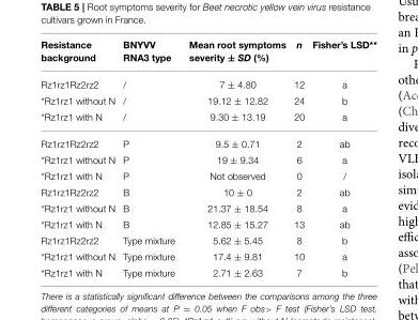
<table><thead><tr><td>Resistance background</td><td>BNYVV RNA3 type</td><td>Mean root symptoms severity ± SD (%)</td><td>n</td><td>Fisher’s LSD**</td></tr></thead><tbody><tr><td>Rz1rz1Rz2rz2</td><td>/</td><td>7 ± 4.80</td><td>12</td><td>a</td></tr><tr><td>*Rz1rz1 without N</td><td>/</td><td>19.12 ± 12.82</td><td>24</td><td>b</td></tr><tr><td>*Rz1rz1 with N</td><td>/</td><td>9.30 ± 13.19</td><td>20</td><td>a</td></tr><tr><td>Rz1rz1Rz2rz2</td><td>P</td><td>9.5 ± 0.71</td><td>2</td><td>ab</td></tr><tr><td>*Rz1rz1 without N</td><td>P</td><td>19 ± 9.34</td><td>6</td><td>a</td></tr><tr><td>*Rz1rz1 with N</td><td>P</td><td>Not observed</td><td>0</td><td>/</td></tr><tr><td>Rz1rz1Rz2rz2</td><td>B</td><td>10 ± 0</td><td>2</td><td>ab</td></tr><tr><td>*Rz1rz1 without N</td><td>B</td><td>21.37 ± 18.54</td><td>8</td><td>a</td></tr><tr><td>*Rz1rz1 with N</td><td>B</td><td>12.85 ± 15.27</td><td>13</td><td>ab</td></tr><tr><td>Rz1rz1Rz2rz2</td><td>Type mixture</td><td>5.62 ± 5.45</td><td>8</td><td>b</td></tr><tr><td>*Rz1rz1 without N</td><td>Type mixture</td><td>17.4 ± 9.81</td><td>10</td><td>a</td></tr><tr><td>*Rz1rz1 with N</td><td>Type mixture</td><td>2.71 ± 2.63</td><td>7</td><td>b</td></tr></tbody></table>